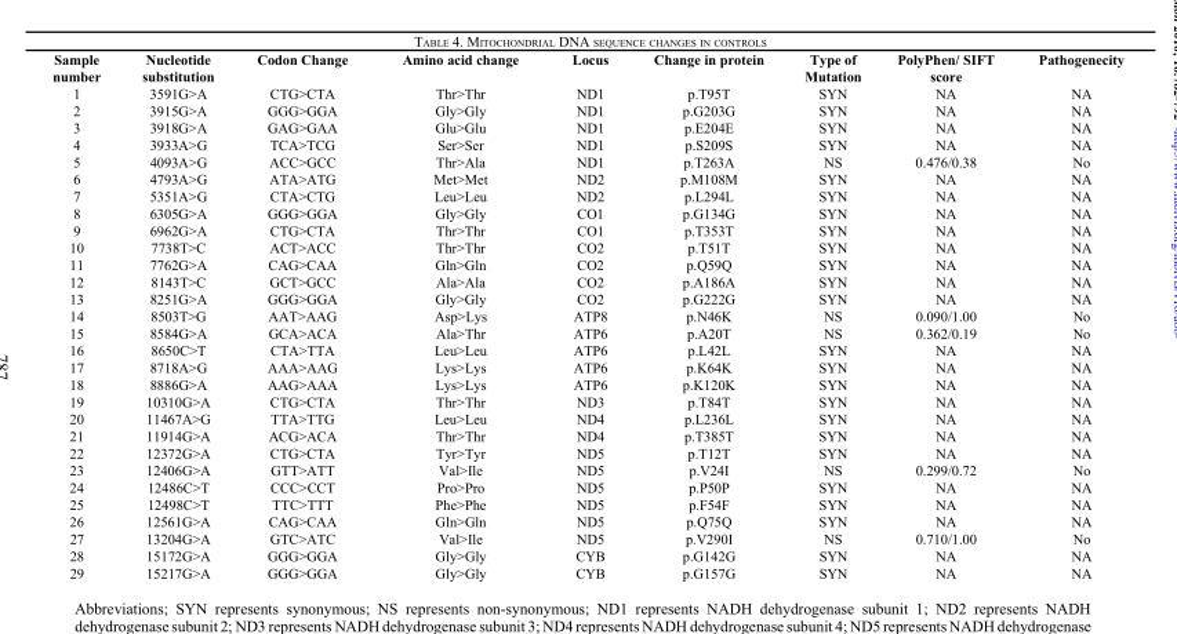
<table><thead><tr><td>Sample number</td><td>Nucleotide substitution</td><td>Codon Change</td><td>Amino acid change</td><td>Locus</td><td>Change in protein</td><td>Type of Mutation</td><td>PolyPhen/ SIFT score</td><td>Pathogenecity</td></tr></thead><tbody><tr><td>1</td><td>3591G&gt;A</td><td>CTG&gt;CTA</td><td>Thr&gt;Thr</td><td>ND1</td><td>p.T95T</td><td>SYN</td><td>NA</td><td>NA</td></tr><tr><td>2</td><td>3915G&gt;A</td><td>GGG&gt;GGA</td><td>Gly&gt;Gly</td><td>ND1</td><td>p.G203G</td><td>SYN</td><td>NA</td><td>NA</td></tr><tr><td>3</td><td>3918G&gt;A</td><td>GAG&gt;GAA</td><td>Glu&gt;Glu</td><td>ND1</td><td>p.E204E</td><td>SYN</td><td>NA</td><td>NA</td></tr><tr><td>4</td><td>3933A&gt;G</td><td>TCA&gt;TCG</td><td>Ser&gt;Ser</td><td>ND1</td><td>p.S209S</td><td>SYN</td><td>NA</td><td>NA</td></tr><tr><td>5</td><td>4093A&gt;G</td><td>ACC&gt;GCC</td><td>Thr&gt;Ala</td><td>ND1</td><td>p.T263A</td><td>NS</td><td>0.476/0.38</td><td>No</td></tr><tr><td>6</td><td>4793A&gt;G</td><td>ATA&gt;ATG</td><td>Met&gt;Met</td><td>ND2</td><td>p.M108M</td><td>SYN</td><td>NA</td><td>NA</td></tr><tr><td>7</td><td>5351A&gt;G</td><td>CTA&gt;CTG</td><td>Leu&gt;Leu</td><td>ND2</td><td>p.L294L</td><td>SYN</td><td>NA</td><td>NA</td></tr><tr><td>8</td><td>6305G&gt;A</td><td>GGG&gt;GGA</td><td>Gly&gt;Gly</td><td>CO1</td><td>p.G134G</td><td>SYN</td><td>NA</td><td>NA</td></tr><tr><td>9</td><td>6962G&gt;A</td><td>CTG&gt;CTA</td><td>Thr&gt;Thr</td><td>CO1</td><td>p.T353T</td><td>SYN</td><td>NA</td><td>NA</td></tr><tr><td>10</td><td>7738T&gt;C</td><td>ACT&gt;ACC</td><td>Thr&gt;Thr</td><td>CO2</td><td>p.T51T</td><td>SYN</td><td>NA</td><td>NA</td></tr><tr><td>11</td><td>7762G&gt;A</td><td>CAG&gt;CAA</td><td>Gln&gt;Gln</td><td>CO2</td><td>p.Q59Q</td><td>SYN</td><td>NA</td><td>NA</td></tr><tr><td>12</td><td>8143T&gt;C</td><td>GCT&gt;GCC</td><td>Ala&gt;Ala</td><td>CO2</td><td>p.A186A</td><td>SYN</td><td>NA</td><td>NA</td></tr><tr><td>13</td><td>8251G&gt;A</td><td>GGG&gt;GGA</td><td>Gly&gt;Gly</td><td>CO2</td><td>p.G222G</td><td>SYN</td><td>NA</td><td>NA</td></tr><tr><td>14</td><td>8503T&gt;G</td><td>AAT&gt;AAG</td><td>Asp&gt;Lys</td><td>ATP8</td><td>p.N46K</td><td>NS</td><td>0.090/1.00</td><td>No</td></tr><tr><td>15</td><td>8584G&gt;A</td><td>GCA&gt;ACA</td><td>Ala&gt;Thr</td><td>ATP6</td><td>p.A20T</td><td>NS</td><td>0.362/0.19</td><td>No</td></tr><tr><td>16</td><td>8650C&gt;T</td><td>CTA&gt;TTA</td><td>Leu&gt;Leu</td><td>ATP6</td><td>p.L42L</td><td>SYN</td><td>NA</td><td>NA</td></tr><tr><td>17</td><td>8718A&gt;G</td><td>AAA&gt;AAG</td><td>Lys&gt;Lys</td><td>ATP6</td><td>p.K64K</td><td>SYN</td><td>NA</td><td>NA</td></tr><tr><td>18</td><td>8886G&gt;A</td><td>AAG&gt;AAA</td><td>Lys&gt;Lys</td><td>ATP6</td><td>p.K120K</td><td>SYN</td><td>NA</td><td>NA</td></tr><tr><td>19</td><td>10310G&gt;A</td><td>CTG&gt;CTA</td><td>Thr&gt;Thr</td><td>ND3</td><td>p.T84T</td><td>SYN</td><td>NA</td><td>NA</td></tr><tr><td>20</td><td>11467A&gt;G</td><td>TTA&gt;TTG</td><td>Leu&gt;Leu</td><td>ND4</td><td>p.L236L</td><td>SYN</td><td>NA</td><td>NA</td></tr><tr><td>21</td><td>11914G&gt;A</td><td>ACG&gt;ACA</td><td>Thr&gt;Thr</td><td>ND4</td><td>p.T385T</td><td>SYN</td><td>NA</td><td>NA</td></tr><tr><td>22</td><td>12372G&gt;A</td><td>CTG&gt;CTA</td><td>Tyr&gt;Tyr</td><td>ND5</td><td>p.T12T</td><td>SYN</td><td>NA</td><td>NA</td></tr><tr><td>23</td><td>12406G&gt;A</td><td>GTT&gt;ATT</td><td>Val&gt;Ile</td><td>ND5</td><td>p.V24I</td><td>NS</td><td>0.299/0.72</td><td>No</td></tr><tr><td>24</td><td>12486C&gt;T</td><td>CCC&gt;CCT</td><td>Pro&gt;Pro</td><td>ND5</td><td>p.P50P</td><td>SYN</td><td>NA</td><td>NA</td></tr><tr><td>25</td><td>12498C&gt;T</td><td>TTC&gt;TTT</td><td>Phe&gt;Phe</td><td>ND5</td><td>p.F54F</td><td>SYN</td><td>NA</td><td>NA</td></tr><tr><td>26</td><td>12561G&gt;A</td><td>CAG&gt;CAA</td><td>Gln&gt;Gln</td><td>ND5</td><td>p.Q75Q</td><td>SYN</td><td>NA</td><td>NA</td></tr><tr><td>27</td><td>13204G&gt;A</td><td>GTC&gt;ATC</td><td>Val&gt;Ile</td><td>ND5</td><td>p.V290I</td><td>NS</td><td>0.710/1.00</td><td>No</td></tr><tr><td>28</td><td>15172G&gt;A</td><td>GGG&gt;GGA</td><td>Gly&gt;Gly</td><td>CYB</td><td>p.G142G</td><td>SYN</td><td>NA</td><td>NA</td></tr><tr><td>29</td><td>15217G&gt;A</td><td>GGG&gt;GGA</td><td>Gly&gt;Gly</td><td>CYB</td><td>p.G157G</td><td>SYN</td><td>NA</td><td>NA</td></tr></tbody></table>